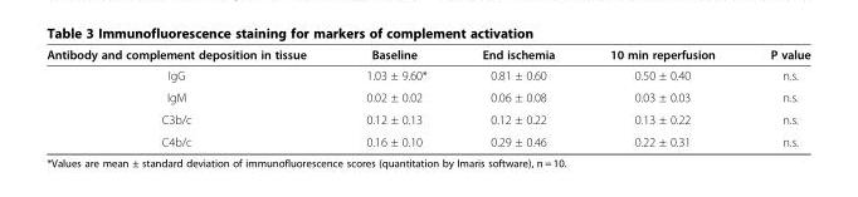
<table><thead><tr><td>Antibody and complement deposition in tissue</td><td>Baseline</td><td>End ischemia</td><td>10 min reperfusion</td><td>P value</td></tr></thead><tbody><tr><td>IgG</td><td>1.03 ± 9.60*</td><td>0.81 ± 0.60</td><td>0.50 ± 0.40</td><td>n.s.</td></tr><tr><td>IgM</td><td>0.02 ± 0.02</td><td>0.06 ± 0.08</td><td>0.03 ± 0.03</td><td>n.s.</td></tr><tr><td>C3b/c</td><td>0.12 ± 0.13</td><td>0.12 ± 0.22</td><td>0.13 ± 0.22</td><td>n.s.</td></tr><tr><td>C4b/c</td><td>0.16 ± 0.10</td><td>0.29 ± 0.46</td><td>0.22 ± 0.31</td><td>n.s.</td></tr></tbody></table>